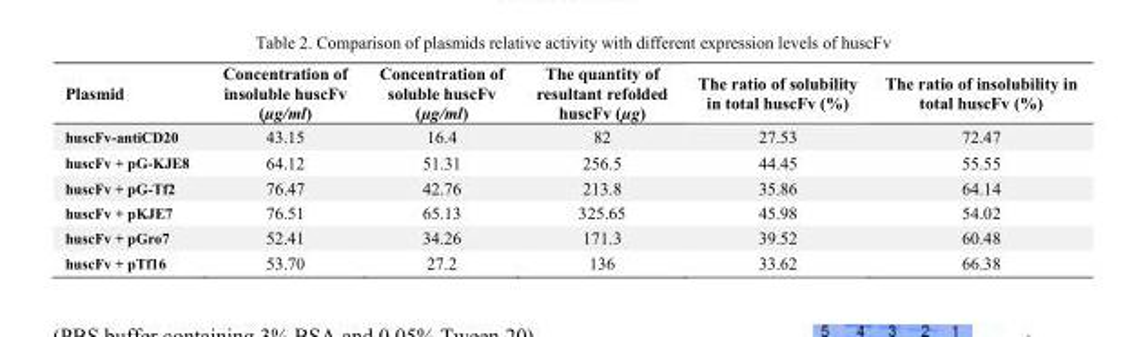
<table><thead><tr><td>Plasmid</td><td>Concentration of insoluble huscFv (µg/ml)</td><td>Concentration of soluble huscFv (µg/ml)</td><td>The quantity of resultant refolded huscFv (µg)</td><td>The ratio of solubility in total huscFv (%)</td><td>The ratio of insolubility in total huscFv (%)</td></tr></thead><tbody><tr><td>huscFv-antiCD20</td><td>43.15</td><td>16.4</td><td>82</td><td>27.53</td><td>72.47</td></tr><tr><td>huscFv + pG-KJE8</td><td>64.12</td><td>51.31</td><td>256.5</td><td>44.45</td><td>55.55</td></tr><tr><td>huscFv + pG-Tf2</td><td>76.47</td><td>42.76</td><td>213.8</td><td>35.86</td><td>64.14</td></tr><tr><td>huscFv + pKJE7</td><td>76.51</td><td>65.13</td><td>325.65</td><td>45.98</td><td>54.02</td></tr><tr><td>huscFv + pGro7</td><td>52.41</td><td>34.26</td><td>171.3</td><td>39.52</td><td>60.48</td></tr><tr><td>huscFv + pTf16</td><td>53.70</td><td>27.2</td><td>136</td><td>33.62</td><td>66.38</td></tr></tbody></table>